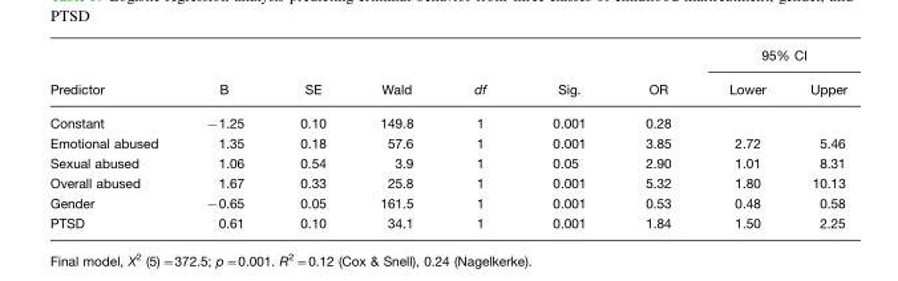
<table><thead><tr><td rowspan="2">Predictor</td><td rowspan="2">B</td><td rowspan="2">SE</td><td rowspan="2">Wald</td><td rowspan="2">df</td><td rowspan="2">Sig.</td><td rowspan="2">OR</td><td colspan="2">95% CI</td></tr><tr><td>Lower</td><td>Upper</td></tr></thead><tbody><tr><td>Constant</td><td>−1.25</td><td>0.10</td><td>149.8</td><td>1</td><td>0.001</td><td>0.28</td><td></td><td></td></tr><tr><td>Emotional abused</td><td>1.35</td><td>0.18</td><td>57.6</td><td>1</td><td>0.001</td><td>3.85</td><td>2.72</td><td>5.46</td></tr><tr><td>Sexual abused</td><td>1.06</td><td>0.54</td><td>3.9</td><td>1</td><td>0.05</td><td>2.90</td><td>1.01</td><td>8.31</td></tr><tr><td>Overall abused</td><td>1.67</td><td>0.33</td><td>25.8</td><td>1</td><td>0.001</td><td>5.32</td><td>1.80</td><td>10.13</td></tr><tr><td>Gender</td><td>−0.65</td><td>0.05</td><td>161.5</td><td>1</td><td>0.001</td><td>0.53</td><td>0.48</td><td>0.58</td></tr><tr><td>PTSD</td><td>0.61</td><td>0.10</td><td>34.1</td><td>1</td><td>0.001</td><td>1.84</td><td>1.50</td><td>2.25</td></tr></tbody></table>